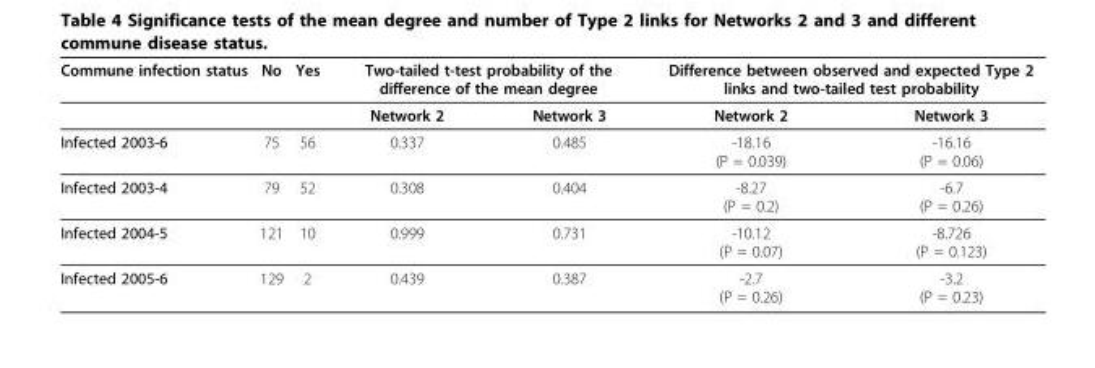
<table><thead><tr><td rowspan="2">Commune infection status</td><td rowspan="2">No</td><td rowspan="2">Yes</td><td colspan="2">Two-tailed t-test probability of the difference of the mean degree</td><td colspan="2">Difference between observed and expected Type 2 links and two-tailed test probability</td></tr><tr><td>Network 2</td><td>Network 3</td><td>Network 2</td><td>Network 3</td></tr></thead><tbody><tr><td>Infected 2003-6</td><td>75</td><td>56</td><td>0.337</td><td>0.485</td><td>-18.16 (P = 0.039)</td><td>-16.16 (P = 0.06)</td></tr><tr><td>Infected 2003-4</td><td>79</td><td>52</td><td>0.308</td><td>0.404</td><td>-8.27 (P = 0.2)</td><td>-6.7 (P = 0.26)</td></tr><tr><td>Infected 2004-5</td><td>121</td><td>10</td><td>0.999</td><td>0.731</td><td>-10.12 (P = 0.07)</td><td>-8.726 (P = 0.123)</td></tr><tr><td>Infected 2005-6</td><td>129</td><td>2</td><td>0.439</td><td>0.387</td><td>-2.7 (P = 0.26)</td><td>-3.2 (P = 0.23)</td></tr></tbody></table>